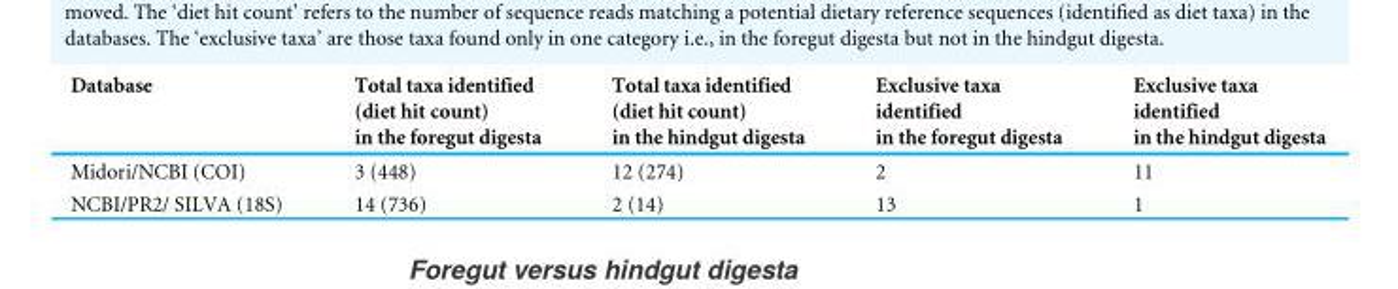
<table><thead><tr><td>Database</td><td>Total taxa identified (diet hit count) in the foregut digesta</td><td>Total taxa identified (diet hit count) in the hindgut digesta</td><td>Exclusive taxa identified in the foregut digesta</td><td>Exclusive taxa identified in the hindgut digesta</td></tr></thead><tbody><tr><td>Midori/NCBI (COI)</td><td>3 (448)</td><td>12 (274)</td><td>2</td><td>11</td></tr><tr><td>NCBI/PR2/ SILVA (18S)</td><td>14 (736)</td><td>2 (14)</td><td>13</td><td>1</td></tr></tbody></table>